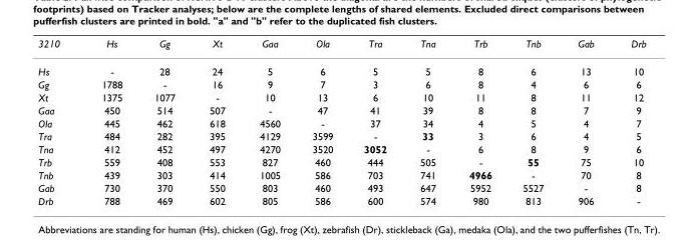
<table><thead><tr><td>3210</td><td>Hs</td><td>Gg</td><td>Xt</td><td>Gaa</td><td>Ola</td><td>Tra</td><td>Tna</td><td>Trb</td><td>Tnb</td><td>Gab</td><td>Drb</td></tr></thead><tbody><tr><td>Hs</td><td>-</td><td>28</td><td>24</td><td>5</td><td>6</td><td>5</td><td>5</td><td>8</td><td>6</td><td>13</td><td>10</td></tr><tr><td>Gg</td><td>1788</td><td>-</td><td>16</td><td>9</td><td>7</td><td>3</td><td>6</td><td>8</td><td>4</td><td>6</td><td>6</td></tr><tr><td>Xt</td><td>1375</td><td>1077</td><td>-</td><td>10</td><td>13</td><td>6</td><td>10</td><td>11</td><td>8</td><td>11</td><td>12</td></tr><tr><td>Gaa</td><td>450</td><td>514</td><td>507</td><td>-</td><td>47</td><td>41</td><td>39</td><td>8</td><td>8</td><td>7</td><td>9</td></tr><tr><td>Ola</td><td>445</td><td>462</td><td>618</td><td>4560</td><td>-</td><td>37</td><td>34</td><td>4</td><td>5</td><td>4</td><td>7</td></tr><tr><td>Tra</td><td>484</td><td>282</td><td>395</td><td>4129</td><td>3599</td><td>-</td><td>33</td><td>3</td><td>6</td><td>4</td><td>5</td></tr><tr><td>Tna</td><td>412</td><td>452</td><td>497</td><td>4270</td><td>3520</td><td>3052</td><td>-</td><td>6</td><td>8</td><td>9</td><td>6</td></tr><tr><td>Trb</td><td>559</td><td>408</td><td>553</td><td>827</td><td>460</td><td>444</td><td>505</td><td>-</td><td>55</td><td>75</td><td>10</td></tr><tr><td>Tnb</td><td>439</td><td>303</td><td>414</td><td>1005</td><td>586</td><td>703</td><td>741</td><td>4966</td><td>-</td><td>70</td><td>8</td></tr><tr><td>Gab</td><td>730</td><td>370</td><td>550</td><td>803</td><td>460</td><td>493</td><td>647</td><td>5952</td><td>5527</td><td>-</td><td>8</td></tr><tr><td>Drb</td><td>788</td><td>469</td><td>602</td><td>805</td><td>586</td><td>600</td><td>574</td><td>980</td><td>813</td><td>906</td><td>-</td></tr></tbody></table>